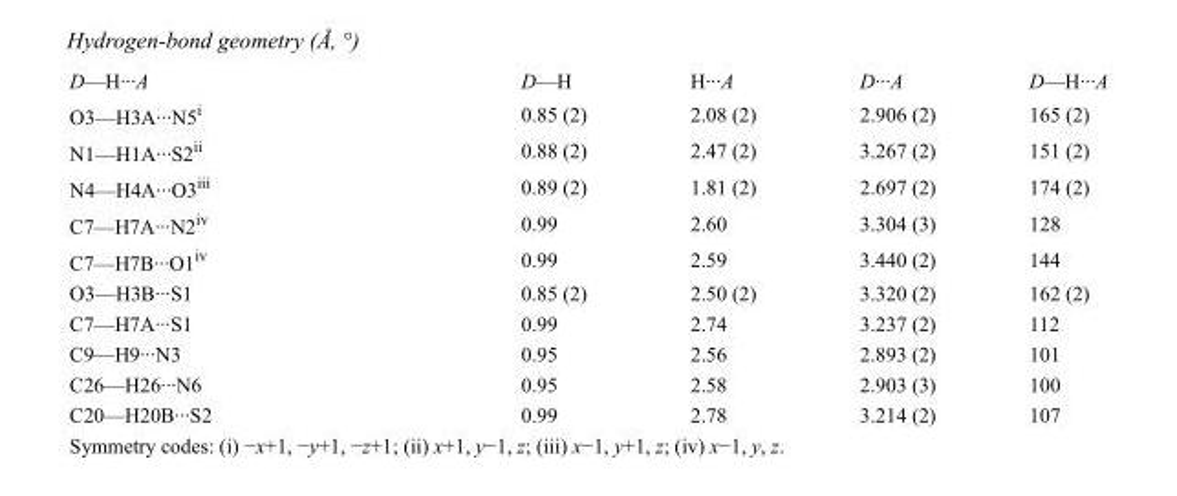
<table><tbody><tr><td>D—H···A</td><td>D—H</td><td>H···A</td><td>D···A</td><td>D—H···A</td></tr><tr><td>O3—H3A···N5<sup>i</sup></td><td>0.85 (2)</td><td>2.08 (2)</td><td>2.906 (2)</td><td>165 (2)</td></tr><tr><td>N1—H1A···S2<sup>ii</sup></td><td>0.88 (2)</td><td>2.47 (2)</td><td>3.267 (2)</td><td>151 (2)</td></tr><tr><td>N4—H4A···O3<sup>iii</sup></td><td>0.89 (2)</td><td>1.81 (2)</td><td>2.697 (2)</td><td>174 (2)</td></tr><tr><td>C7—H7A···N2<sup>iv</sup></td><td>0.99</td><td>2.60</td><td>3.304 (3)</td><td>128</td></tr><tr><td>C7—H7B···O1<sup>iv</sup></td><td>0.99</td><td>2.59</td><td>3.440 (2)</td><td>144</td></tr><tr><td>O3—H3B···S1</td><td>0.85 (2)</td><td>2.50 (2)</td><td>3.320 (2)</td><td>162 (2)</td></tr><tr><td>C7—H7A···S1</td><td>0.99</td><td>2.74</td><td>3.237 (2)</td><td>112</td></tr><tr><td>C9—H9···N3</td><td>0.95</td><td>2.56</td><td>2.893 (2)</td><td>101</td></tr><tr><td>C26—H26···N6</td><td>0.95</td><td>2.58</td><td>2.903 (3)</td><td>100</td></tr><tr><td>C20—H20B···S2</td><td>0.99</td><td>2.78</td><td>3.214 (2)</td><td>107</td></tr></tbody></table>